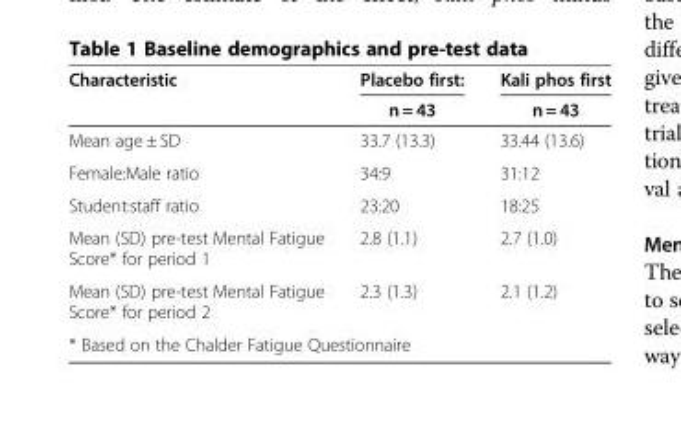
<table><thead><tr><td rowspan="2">Characteristic</td><td rowspan="2">Placebo first: n = 43</td><td rowspan="2">Kali phos first n = 43</td></tr><tr></tr></thead><tbody><tr><td>Mean age ± SD</td><td>33.7 (13.3)</td><td>33.44 (13.6)</td></tr><tr><td>Female:Male ratio</td><td>34:9</td><td>31:12</td></tr><tr><td>Student:staff ratio</td><td>23:20</td><td>18:25</td></tr><tr><td>Mean (SD) pre-test Mental Fatigue Score* for period 1</td><td>2.8 (1.1)</td><td>2.7 (1.0)</td></tr><tr><td>Mean (SD) pre-test Mental Fatigue Score* for period 2</td><td>2.3 (1.3)</td><td>2.1 (1.2)</td></tr><tr><td colspan="3">* Based on the Chalder Fatigue Questionnaire</td></tr></tbody></table>